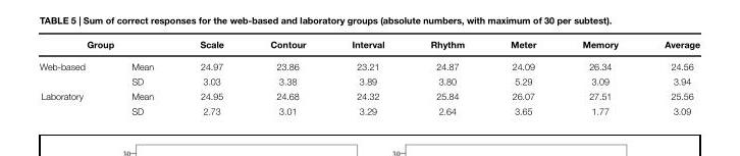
<table><thead><tr><td colspan="2">Group</td><td rowspan="2">Scale 24.97</td><td rowspan="2">Contour 23.86</td><td rowspan="2">Interval 23.21</td><td rowspan="2">Rhythm 24.87</td><td rowspan="2">Meter 24.09</td><td rowspan="2">Memory 26.34</td><td rowspan="2">Average 24.56</td></tr><tr><td>Web-based</td><td>Mean</td></tr></thead><tbody><tr><td></td><td>SD</td><td>3.03</td><td>3.38</td><td>3.89</td><td>3.80</td><td>5.29</td><td>3.09</td><td>3.94</td></tr><tr><td rowspan="2">Laboratory</td><td>Mean</td><td>24.95</td><td>24.68</td><td>24.32</td><td>25.84</td><td>26.07</td><td>27.51</td><td>25.56</td></tr><tr><td>SD</td><td>2.73</td><td>3.01</td><td>3.29</td><td>2.64</td><td>3.65</td><td>1.77</td><td>3.09</td></tr></tbody></table>